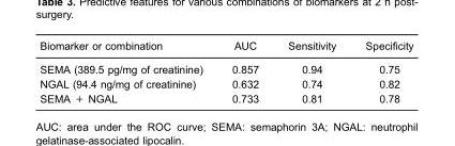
<table><thead><tr><td>Biomarker or combination</td><td>AUC</td><td>Sensitivity</td><td>Specificity</td></tr></thead><tbody><tr><td>SEMA (389.5 pg/mg of creatinine)</td><td>0.857</td><td>0.94</td><td>0.75</td></tr><tr><td>NGAL (94.4 ng/mg of creatinine)</td><td>0.632</td><td>0.74</td><td>0.82</td></tr><tr><td>SEMA + NGAL</td><td>0.733</td><td>0.81</td><td>0.78</td></tr></tbody></table>